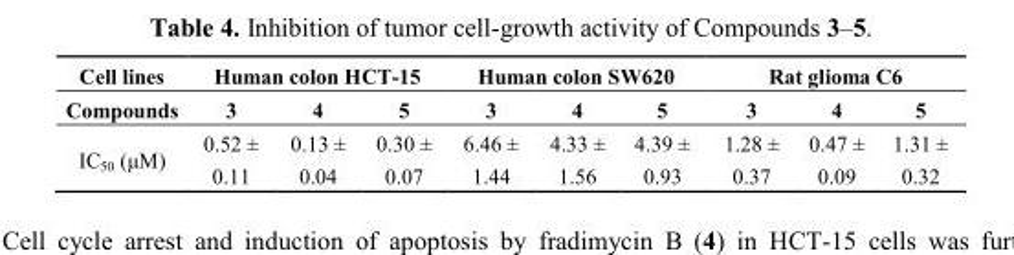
<table><thead><tr><td rowspan="2">Cell lines Compounds</td><td colspan="3">Human colon HCT-15</td><td colspan="3">Human colon SW620</td><td colspan="3">Rat glioma C6</td></tr><tr><td>3</td><td>4</td><td>5</td><td>3</td><td>4</td><td>5</td><td>3</td><td>4</td><td>5</td></tr></thead><tbody><tr><td>IC<sub>50</sub> (μM)</td><td>0.52 ± 0.11</td><td>0.13 ± 0.04</td><td>0.30 ± 0.07</td><td>6.46 ± 1.44</td><td>4.33 ± 1.56</td><td>4.39 ± 0.93</td><td>1.28 ± 0.37</td><td>0.47 ± 0.09</td><td>1.31 ± 0.32</td></tr></tbody></table>